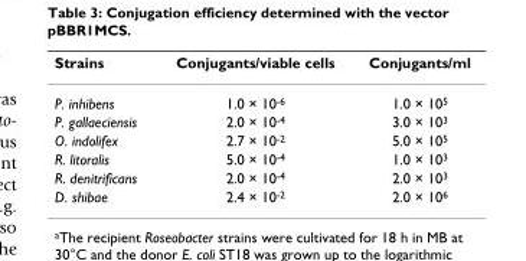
<table><thead><tr><td>Strains</td><td>Conjugants/viable cells</td><td>Conjugants/ml</td></tr></thead><tbody><tr><td>P. inhibens</td><td>1.0 × 10<sup>-6</sup></td><td>1.0 × 10<sup>5</sup></td></tr><tr><td>P. gallaeciensis</td><td>2.0 × 10<sup>-4</sup></td><td>3.0 × 10<sup>3</sup></td></tr><tr><td>O. indolifex</td><td>2.7 × 10<sup>-2</sup></td><td>5.0 × 10<sup>5</sup></td></tr><tr><td>R. litoralis</td><td>5.0 × 10<sup>-4</sup></td><td>1.0 × 10<sup>3</sup></td></tr><tr><td>R. denitrificans</td><td>2.0 × 10<sup>-4</sup></td><td>2.0 × 10<sup>3</sup></td></tr><tr><td>D. shibae</td><td>2.4 × 10<sup>-2</sup></td><td>2.0 × 10<sup>6</sup></td></tr></tbody></table>